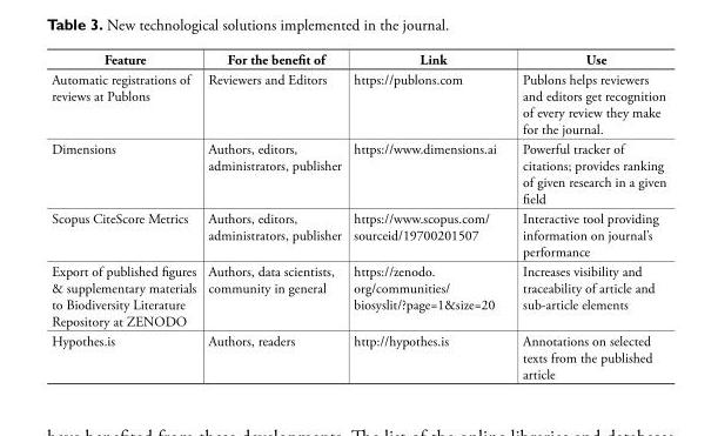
<table><tbody><tr><td>Feature</td><td>For the benefit of</td><td>Link</td><td>Use</td></tr><tr><td>Automatic registrations of reviews at Publons</td><td>Reviewers and Editors</td><td>https://publons.com</td><td>Publons helps reviewers and editors get recognition of every review they make for the journal.</td></tr><tr><td>Dimensions</td><td>Authors, editors, administrators, publisher</td><td>https://www.dimensions.ai</td><td>Powerful tracker of citations; provides ranking of given research in a given field</td></tr><tr><td>Scopus CiteScore Metrics</td><td>Authors, editors, administrators, publisher</td><td>https://www.scopus.com/ sourceid/19700201507</td><td>Interactive tool providing information on journal’s performance</td></tr><tr><td>Export of published figures &amp; supplementary materials to Biodiversity Literature Repository at ZENODO</td><td>Authors, data scientists, community in general</td><td>https://zenodo. org/communities/ biosyslit/?page=1&amp;size=20</td><td>Increases visibility and traceability of article and sub-article elements</td></tr><tr><td>Hypothes.is</td><td>Authors, readers</td><td>http://hypothes.is</td><td>Annotations on selected texts from the published article</td></tr></tbody></table>